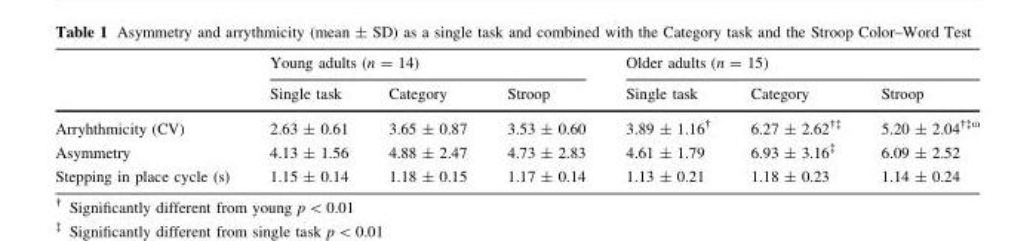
<table><thead><tr><td rowspan="2"></td><td colspan="3">Young adults (n = 14)</td><td colspan="3">Older adults (n = 15)</td></tr><tr><td>Single task</td><td>Category</td><td>Stroop</td><td>Single task</td><td>Category</td><td>Stroop</td></tr></thead><tbody><tr><td>Arryhthmicity (CV)</td><td>2.63 ± 0.61</td><td>3.65 ± 0.87</td><td>3.53 ± 0.60</td><td>3.89 ± 1.16<sup>†</sup></td><td>6.27 ± 2.62<sup>†‡</sup></td><td>5.20 ± 2.04<sup>†‡ω</sup></td></tr><tr><td>Asymmetry</td><td>4.13 ± 1.56</td><td>4.88 ± 2.47</td><td>4.73 ± 2.83</td><td>4.61 ± 1.79</td><td>6.93 ± 3.16<sup>‡</sup></td><td>6.09 ± 2.52</td></tr><tr><td>Stepping in place cycle (s)</td><td>1.15 ± 0.14</td><td>1.18 ± 0.15</td><td>1.17 ± 0.14</td><td>1.13 ± 0.21</td><td>1.18 ± 0.23</td><td>1.14 ± 0.24</td></tr></tbody></table>